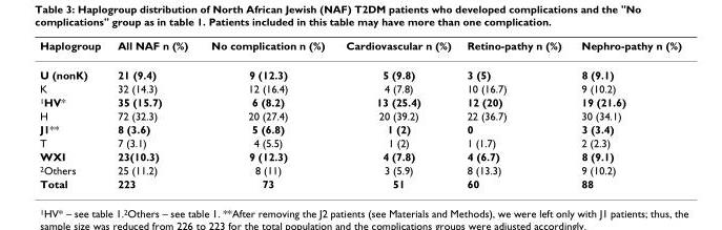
<table><thead><tr><td>Haplogroup</td><td>All NAF n (%)</td><td>No complication n (%)</td><td>Cardiovascular n (%)</td><td>Retino-pathy n (%)</td><td>Nephro-pathy n (%)</td></tr></thead><tbody><tr><td>U (nonK)</td><td>21 (9.4)</td><td>9 (12.3)</td><td>5 (9.8)</td><td>3 (5)</td><td>8 (9.1)</td></tr><tr><td>K</td><td>32 (14.3)</td><td>12 (16.4)</td><td>4 (7.8)</td><td>10 (16.7)</td><td>9 (10.2)</td></tr><tr><td><sup>1</sup>HV*</td><td>35 (15.7)</td><td>6 (8.2)</td><td>13 (25.4)</td><td>12 (20)</td><td>19 (21.6)</td></tr><tr><td>H</td><td>72 (32.3)</td><td>20 (27.4)</td><td>20 (39.2)</td><td>22 (36.7)</td><td>30 (34.1)</td></tr><tr><td>J1**</td><td>8 (3.6)</td><td>5 (6.8)</td><td>1 (2)</td><td>0</td><td>3 (3.4)</td></tr><tr><td>T</td><td>7 (3.1)</td><td>4 (5.5)</td><td>1 (2)</td><td>1 (1.7)</td><td>2 (2.3)</td></tr><tr><td>WXI</td><td>23(10.3)</td><td>9 (12.3)</td><td>4 (7.8)</td><td>4 (6.7)</td><td>8 (9.1)</td></tr><tr><td><sup>2</sup>Others</td><td>25 (11.2)</td><td>8 (11)</td><td>3 (5.9)</td><td>8 (13.3)</td><td>9 (10.2)</td></tr><tr><td>Total</td><td>223</td><td>73</td><td>51</td><td>60</td><td>88</td></tr></tbody></table>